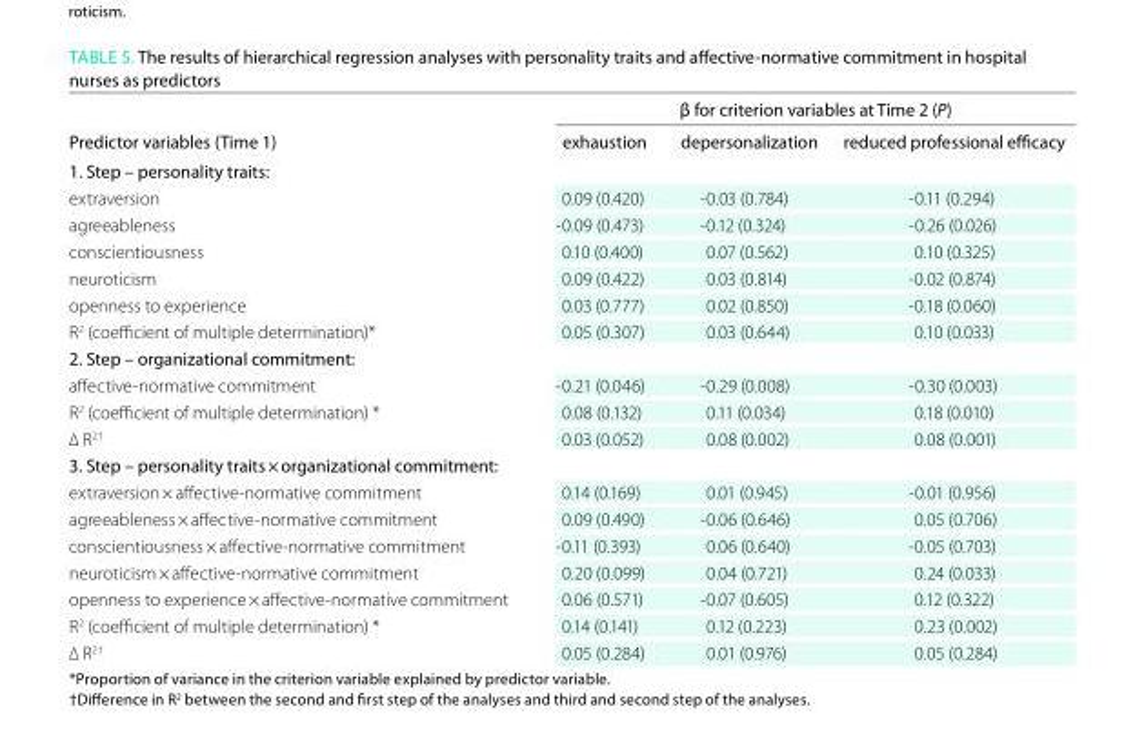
<table><thead><tr><td rowspan="2">nurses as predictors Predictor variables (time 1)</td><td colspan="3">β for criterion variables at time 2 (P)</td></tr><tr><td>exhaustion</td><td>depersonalization</td><td>reduced professional efficacy</td></tr></thead><tbody><tr><td colspan="4">1. step – personality traits:</td></tr><tr><td>extraversion</td><td>0.09 (0.420)</td><td>-0.03 (0.784)</td><td>-0.11 (0.294)</td></tr><tr><td>agreeableness</td><td>-0.09 (0.473)</td><td>-0.12 (0.324)</td><td>-0.26 (0.026)</td></tr><tr><td>conscientiousness</td><td>0.10 (0.400)</td><td>0.07 (0.562)</td><td>0.10 (0.325)</td></tr><tr><td>neuroticism</td><td>0.09 (0.422)</td><td>0.03 (0.814)</td><td>-0.02 (0.874)</td></tr><tr><td>openness to experience</td><td>0.03 (0.777)</td><td>0.02 (0.850)</td><td>-0.18 (0.060)</td></tr><tr><td>R<sup>2</sup> (coefficient of multiple determination)*</td><td>0.05 (0.307)</td><td>0.03 (0.644)</td><td>0.10 (0.033)</td></tr><tr><td colspan="4">2. step – organizational commitment:</td></tr><tr><td>affective-normative commitment</td><td>-0.21 (0.046)</td><td>-0.29 (0.008)</td><td>-0.30 (0.003)</td></tr><tr><td>R<sup>2</sup> (coefficient of multiple determination) *</td><td>0.08 (0.132)</td><td>0.11 (0.034)</td><td>0.18 (0.010)</td></tr><tr><td>∆ R2†</td><td>0.03 (0.052)</td><td>0.08 (0.002)</td><td>0.08 (0.001)</td></tr><tr><td colspan="4">3. step – personality traits × organizational commitment:</td></tr><tr><td>extraversion × affective-normative commitment</td><td>0.14 (0.169)</td><td>0.01 (0.945)</td><td>-0.01 (0.956)</td></tr><tr><td>agreeableness × affective-normative commitment</td><td>0.09 (0.490)</td><td>-0.06 (0.646)</td><td>0.05 (0.706)</td></tr><tr><td>conscientiousness × affective-normative commitment</td><td>-0.11 (0.393)</td><td>0.06 (0.640)</td><td>-0.05 (0.703)</td></tr><tr><td>neuroticism × affective-normative commitment</td><td>0.20 (0.099)</td><td>0.04 (0.721)</td><td>0.24 (0.033)</td></tr><tr><td>openness to experience × affective-normative commitment</td><td>0.06 (0.571)</td><td>-0.07 (0.605)</td><td>0.12 (0.322)</td></tr><tr><td>R<sup>2</sup> (coefficient of multiple determination) *</td><td>0.14 (0.141)</td><td>0.12 (0.223)</td><td>0.23 (0.002)</td></tr><tr><td>∆ R2†</td><td>0.05 (0.284)</td><td>0.01 (0.976)</td><td>0.05 (0.284)</td></tr></tbody></table>